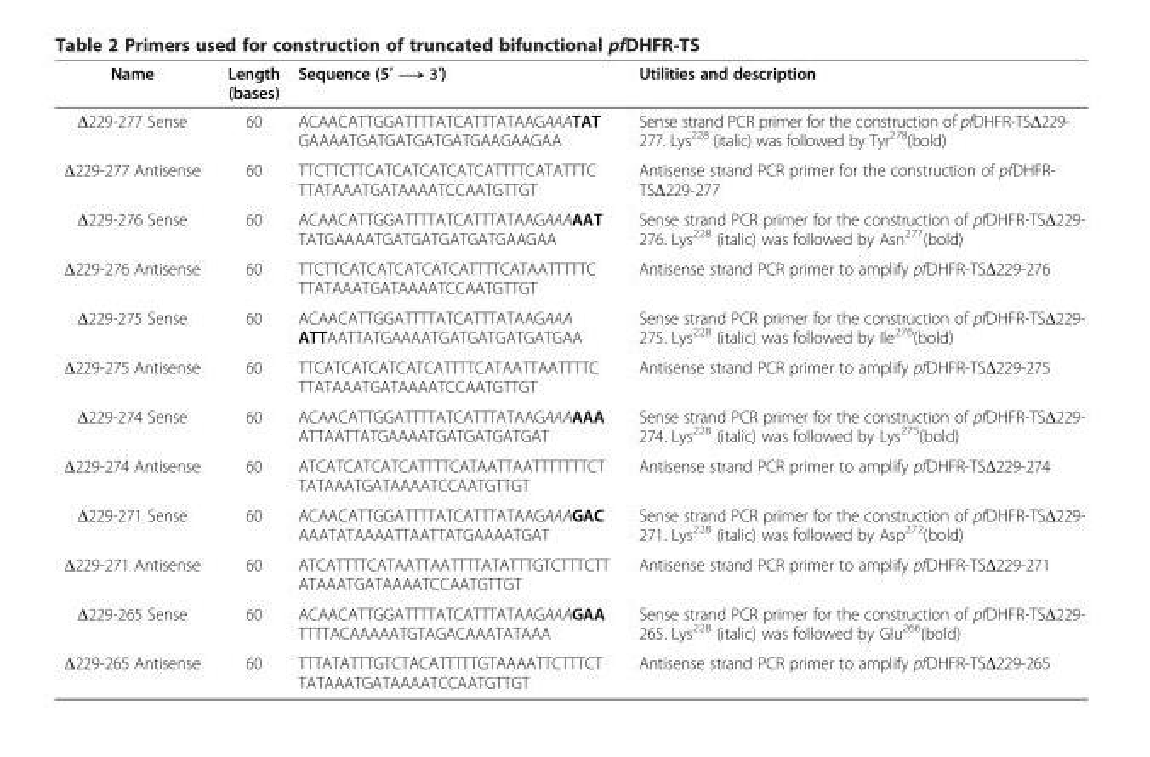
<table><thead><tr><td>Name</td><td>Length (bases)</td><td>Sequence (5′ ⟶ 3′)</td><td>Utilities and description</td></tr></thead><tbody><tr><td>Δ229-277 Sense</td><td>60</td><td>ACAACATTGGATTTTATCATTTATAAGAAATAT GAAAATGATGATGATGATGAAGAAGAA</td><td>Sense strand PCR primer for the construction of pfDHFR-TSΔ229- 277. Lys<sup>228</sup> (italic) was followed by Tyr<sup>278</sup>(bold)</td></tr><tr><td>Δ229-277 Antisense</td><td>60</td><td>TTCTTCTTCATCATCATCATCATTTTCATATTTC TTATAAATGATAAAATCCAATGTTGT</td><td>Antisense strand PCR primer for the construction of pfDHFR- TSΔ229-277</td></tr><tr><td>Δ229-276 Sense</td><td>60</td><td>ACAACATTGGATTTTATCATTTATAAGAAAAAT TATGAAAATGATGATGATGATGAAGAA</td><td>Sense strand PCR primer for the construction of pfDHFR-TSΔ229- 276. Lys<sup>228</sup> (italic) was followed by Asn<sup>277</sup>(bold)</td></tr><tr><td>Δ229-276 Antisense</td><td>60</td><td>TTCTTCATCATCATCATCATTTTCATAATTTTTC TTATAAATGATAAAATCCAATGTTGT</td><td>Antisense strand PCR primer to amplify pfDHFR-TSΔ229-276</td></tr><tr><td>Δ229-275 Sense</td><td>60</td><td>ACAACATTGGATTTTATCATTTATAAGAAA ATTAATTATGAAAATGATGATGATGATGAA</td><td>Sense strand PCR primer for the construction of pfDHFR-TSΔ229- 275. Lys<sup>228</sup> (italic) was followed by Ile<sup>276</sup>(bold)</td></tr><tr><td>Δ229-275 Antisense</td><td>60</td><td>TTCATCATCATCATCATTTTCATAATTAATTTTC TTATAAATGATAAAATCCAATGTTGT</td><td>Antisense strand PCR primer to amplify pfDHFR-TSΔ229-275</td></tr><tr><td>Δ229-274 Sense</td><td>60</td><td>ACAACATTGGATTTTATCATTTATAAGAAAAAA ATTAATTATGAAAATGATGATGATGAT</td><td>Sense strand PCR primer for the construction of pfDHFR-TSΔ229- 274. Lys<sup>228</sup> (italic) was followed by Lys<sup>275</sup>(bold)</td></tr><tr><td>Δ229-274 Antisense</td><td>60</td><td>ATCATCATCATCATTTTCATAATTAATTTTTTTCT TATAAATGATAAAATCCAATGTTGT</td><td>Antisense strand PCR primer to amplify pfDHFR-TSΔ229-274</td></tr><tr><td>Δ229-271 Sense</td><td>60</td><td>ACAACATTGGATTTTATCATTTATAAGAAAGAC AAATATAAAATTAATTATGAAAATGAT</td><td>Sense strand PCR primer for the construction of pfDHFR-TSΔ229- 271. Lys<sup>228</sup> (italic) was followed by Asp<sup>272</sup>(bold)</td></tr><tr><td>Δ229-271 Antisense</td><td>60</td><td>ATCATTTTCATAATTAATTTTATATTTGTCTTTCTT ATAAATGATAAAATCCAATGTTGT</td><td>Antisense strand PCR primer to amplify pfDHFR-TSΔ229-271</td></tr><tr><td>Δ229-265 Sense</td><td>60</td><td>ACAACATTGGATTTTATCATTTATAAGAAAGAA TTTTACAAAAATGTAGACAAATATAAA</td><td>Sense strand PCR primer for the construction of pfDHFR-TSΔ229- 265. Lys<sup>228</sup> (italic) was followed by Glu<sup>266</sup>(bold)</td></tr><tr><td>Δ229-265 Antisense</td><td>60</td><td>TTTATATTTGTCTACATTTTTGTAAAATTCTTTCT TATAAATGATAAAATCCAATGTTGT</td><td>Antisense strand PCR primer to amplify pfDHFR-TSΔ229-265</td></tr></tbody></table>